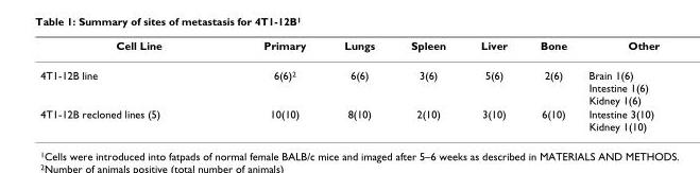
<table><thead><tr><td>Cell Line</td><td>Primary</td><td>Lungs</td><td>Spleen</td><td>Liver</td><td>Bone</td><td>Other</td></tr></thead><tbody><tr><td>4T1-12B line</td><td>6(6)<sup>2</sup></td><td>6(6)</td><td>3(6)</td><td>5(6)</td><td>2(6)</td><td>Brain 1(6) Intestine 1(6) Kidney 1(6)</td></tr><tr><td>4T1-12B recloned lines (5)</td><td>10(10)</td><td>8(10)</td><td>2(10)</td><td>3(10)</td><td>6(10)</td><td>Intestine 3(10) Kidney 1(10)</td></tr></tbody></table>